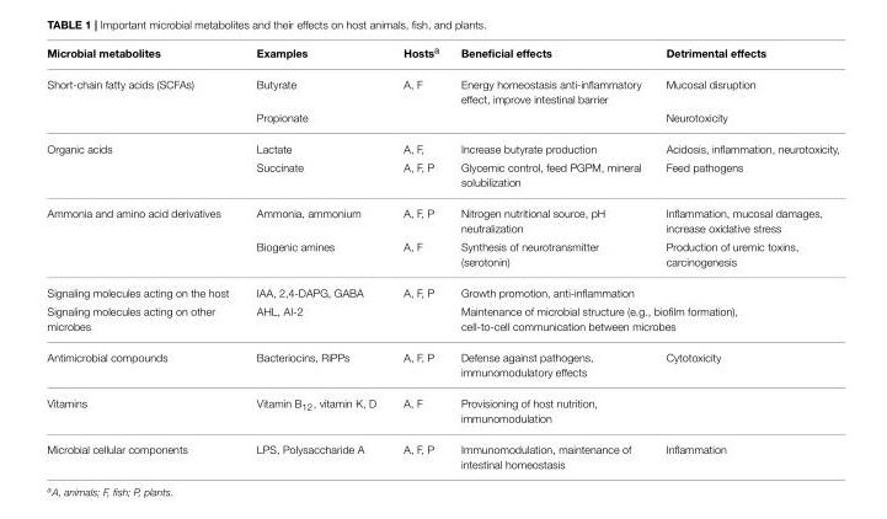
<table><thead><tr><td>Microbial metabolites</td><td>Examples</td><td>Hosts<sup>a</sup></td><td>Beneficial effects</td><td>Detrimental effects</td></tr></thead><tbody><tr><td rowspan="2">Short-chain fatty acids (SCFAs)</td><td>Butyrate</td><td>A, F</td><td>Energy homeostasis anti-inflammatory effect, improve intestinal barrier</td><td>Mucosal disruption</td></tr><tr><td>Propionate</td><td></td><td></td><td>Neurotoxicity</td></tr><tr><td rowspan="2">Organic acids</td><td>Lactate</td><td>A, F,</td><td>Increase butyrate production</td><td>Acidosis, inflammation, neurotoxicity,</td></tr><tr><td>Succinate</td><td>A, F, P</td><td>Glycemic control, feed PGPM, mineral solubilization</td><td>Feed pathogens</td></tr><tr><td rowspan="2">Ammonia and amino acid derivatives</td><td>Ammonia, ammonium</td><td>A, F, P</td><td>Nitrogen nutritional source, pH neutralization</td><td>Inflammation, mucosal damages, increase oxidative stress</td></tr><tr><td>Biogenic amines</td><td>A, F</td><td>Synthesis of neurotransmitter (serotonin)</td><td>Production of uremic toxins, carcinogenesis</td></tr><tr><td>Signaling molecules acting on the host</td><td>IAA, 2,4-DAPG, GABA</td><td>A, F, P</td><td>Growth promotion, anti-inflammation</td><td></td></tr><tr><td>Signaling molecules acting on other microbes</td><td>AHL, AI-2</td><td></td><td colspan="2">Maintenance of microbial structure (e.g., biofilm formation), cell-to-cell communication between microbes</td></tr><tr><td>Antimicrobial compounds</td><td>Bacteriocins, RiPPs</td><td>A, F, P</td><td>Defense against pathogens, immunomodulatory effects</td><td>Cytotoxicity</td></tr><tr><td>Vitamins</td><td>Vitamin B<sub>12</sub>, vitamin K, D</td><td>A, F</td><td>Provisioning of host nutrition, immunomodulation</td><td></td></tr><tr><td>Microbial cellular components</td><td>LPS, Polysaccharide A</td><td>A, F, P</td><td>Immunomodulation, maintenance of intestinal homeostasis</td><td>Inflammation</td></tr></tbody></table>